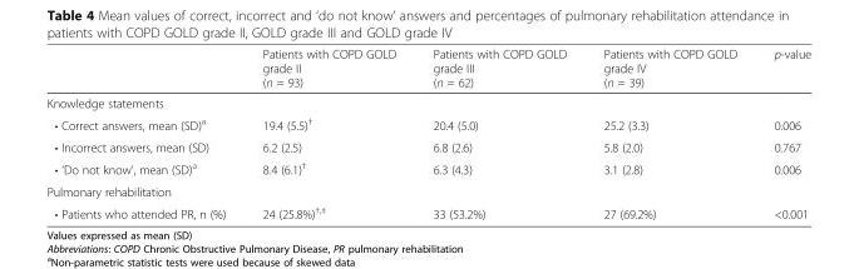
<table><thead><tr><td></td><td>Patients with COPD GOLD grade II (n = 93)</td><td>Patients with COPD GOLD grade III (n = 62)</td><td>Patients with COPD GOLD grade IV (n = 39)</td><td>p-value</td></tr></thead><tbody><tr><td colspan="5">Knowledge statements</td></tr><tr><td>• Correct answers, mean (SD)<sup>a</sup></td><td>19.4 (5.5)<sup>†</sup></td><td>20.4 (5.0)</td><td>25.2 (3.3)</td><td>0.006</td></tr><tr><td>• Incorrect answers, mean (SD)</td><td>6.2 (2.5)</td><td>6.8 (2.6)</td><td>5.8 (2.0)</td><td>0.767</td></tr><tr><td>• ‘Do not know’, mean (SD)<sup>a</sup></td><td>8.4 (6.1)<sup>†</sup></td><td>6.3 (4.3)</td><td>3.1 (2.8)</td><td>0.006</td></tr><tr><td colspan="5">Pulmonary rehabilitation</td></tr><tr><td>• Patients who attended PR, n (%)</td><td>24 (25.8%)<sup>†,‡</sup></td><td>33 (53.2%)</td><td>27 (69.2%)</td><td>&lt;0.001</td></tr></tbody></table>